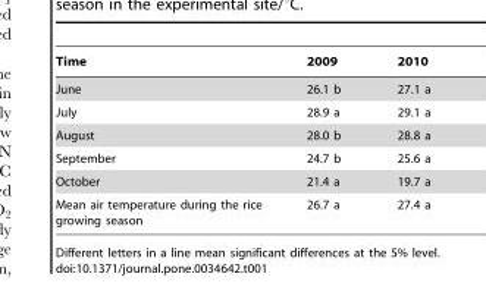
<table><thead><tr><td>Time</td><td>2009</td><td>2010</td></tr></thead><tbody><tr><td>June</td><td>26.1 b</td><td>27.1 a</td></tr><tr><td>July</td><td>28.9 a</td><td>29.1 a</td></tr><tr><td>August</td><td>28.0 b</td><td>28.8 a</td></tr><tr><td>September</td><td>24.7 b</td><td>25.6 a</td></tr><tr><td>October</td><td>21.4 a</td><td>19.7 a</td></tr><tr><td>Mean air temperature during the rice growing season</td><td>26.7 a</td><td>27.4 a</td></tr></tbody></table>